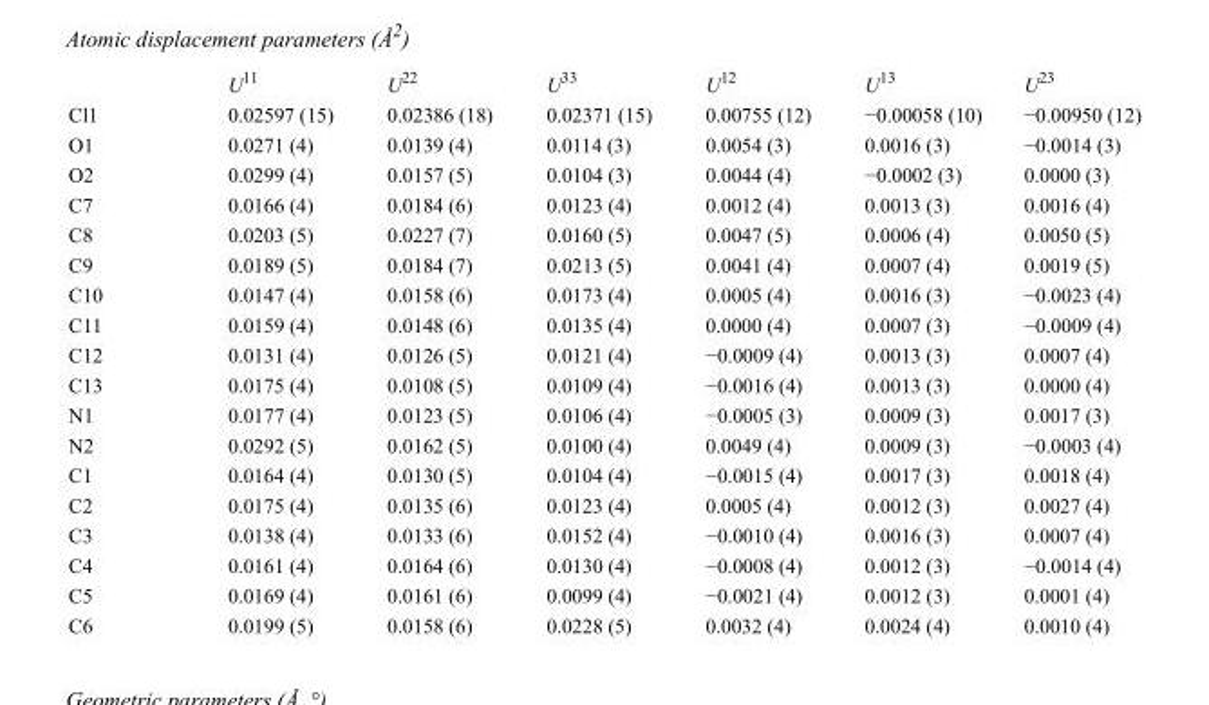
<table><thead><tr><td></td><td>U<sup>11</sup></td><td>U<sup>22</sup></td><td>U<sup>33</sup></td><td>U<sup>12</sup></td><td>U<sup>13</sup></td><td>U<sup>23</sup></td></tr></thead><tbody><tr><td>Cl1</td><td>0.02597 (15)</td><td>0.02386 (18)</td><td>0.02371 (15)</td><td>0.00755 (12)</td><td>−0.00058 (10)</td><td>−0.00950 (12)</td></tr><tr><td>O1</td><td>0.0271 (4)</td><td>0.0139 (4)</td><td>0.0114 (3)</td><td>0.0054 (3)</td><td>0.0016 (3)</td><td>−0.0014 (3)</td></tr><tr><td>O2</td><td>0.0299 (4)</td><td>0.0157 (5)</td><td>0.0104 (3)</td><td>0.0044 (4)</td><td>−0.0002 (3)</td><td>0.0000 (3)</td></tr><tr><td>C7</td><td>0.0166 (4)</td><td>0.0184 (6)</td><td>0.0123 (4)</td><td>0.0012 (4)</td><td>0.0013 (3)</td><td>0.0016 (4)</td></tr><tr><td>C8</td><td>0.0203 (5)</td><td>0.0227 (7)</td><td>0.0160 (5)</td><td>0.0047 (5)</td><td>0.0006 (4)</td><td>0.0050 (5)</td></tr><tr><td>C9</td><td>0.0189 (5)</td><td>0.0184 (7)</td><td>0.0213 (5)</td><td>0.0041 (4)</td><td>0.0007 (4)</td><td>0.0019 (5)</td></tr><tr><td>C10</td><td>0.0147 (4)</td><td>0.0158 (6)</td><td>0.0173 (4)</td><td>0.0005 (4)</td><td>0.0016 (3)</td><td>−0.0023 (4)</td></tr><tr><td>C11</td><td>0.0159 (4)</td><td>0.0148 (6)</td><td>0.0135 (4)</td><td>0.0000 (4)</td><td>0.0007 (3)</td><td>−0.0009 (4)</td></tr><tr><td>C12</td><td>0.0131 (4)</td><td>0.0126 (5)</td><td>0.0121 (4)</td><td>−0.0009 (4)</td><td>0.0013 (3)</td><td>0.0007 (4)</td></tr><tr><td>C13</td><td>0.0175 (4)</td><td>0.0108 (5)</td><td>0.0109 (4)</td><td>−0.0016 (4)</td><td>0.0013 (3)</td><td>0.0000 (4)</td></tr><tr><td>N1</td><td>0.0177 (4)</td><td>0.0123 (5)</td><td>0.0106 (4)</td><td>−0.0005 (3)</td><td>0.0009 (3)</td><td>0.0017 (3)</td></tr><tr><td>N2</td><td>0.0292 (5)</td><td>0.0162 (5)</td><td>0.0100 (4)</td><td>0.0049 (4)</td><td>0.0009 (3)</td><td>−0.0003 (4)</td></tr><tr><td>C1</td><td>0.0164 (4)</td><td>0.0130 (5)</td><td>0.0104 (4)</td><td>−0.0015 (4)</td><td>0.0017 (3)</td><td>0.0018 (4)</td></tr><tr><td>C2</td><td>0.0175 (4)</td><td>0.0135 (6)</td><td>0.0123 (4)</td><td>0.0005 (4)</td><td>0.0012 (3)</td><td>0.0027 (4)</td></tr><tr><td>C3</td><td>0.0138 (4)</td><td>0.0133 (6)</td><td>0.0152 (4)</td><td>−0.0010 (4)</td><td>0.0016 (3)</td><td>0.0007 (4)</td></tr><tr><td>C4</td><td>0.0161 (4)</td><td>0.0164 (6)</td><td>0.0130 (4)</td><td>−0.0008 (4)</td><td>0.0012 (3)</td><td>−0.0014 (4)</td></tr><tr><td>C5</td><td>0.0169 (4)</td><td>0.0161 (6)</td><td>0.0099 (4)</td><td>−0.0021 (4)</td><td>0.0012 (3)</td><td>0.0001 (4)</td></tr><tr><td>C6</td><td>0.0199 (5)</td><td>0.0158 (6)</td><td>0.0228 (5)</td><td>0.0032 (4)</td><td>0.0024 (4)</td><td>0.0010 (4)</td></tr></tbody></table>